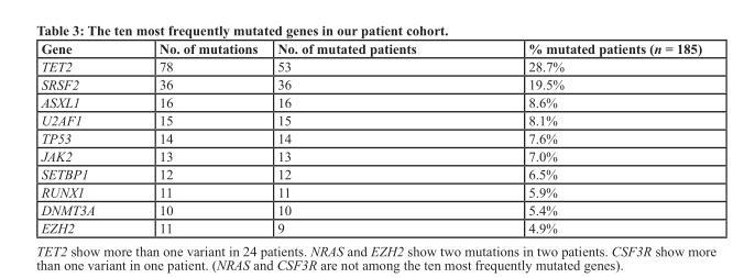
<table><thead><tr><td>Gene</td><td>No. of mutations</td><td>No. of mutated patients</td><td>% mutated patients (n = 185)</td></tr></thead><tbody><tr><td>TET2</td><td>78</td><td>53</td><td>28.7%</td></tr><tr><td>SRSF2</td><td>36</td><td>36</td><td>19.5%</td></tr><tr><td>ASXL1</td><td>16</td><td>16</td><td>8.6%</td></tr><tr><td>U2AF1</td><td>15</td><td>15</td><td>8.1%</td></tr><tr><td>TP53</td><td>14</td><td>14</td><td>7.6%</td></tr><tr><td>JAK2</td><td>13</td><td>13</td><td>7.0%</td></tr><tr><td>SETBP1</td><td>12</td><td>12</td><td>6.5%</td></tr><tr><td>RUNX1</td><td>11</td><td>11</td><td>5.9%</td></tr><tr><td>DNMT3A</td><td>10</td><td>10</td><td>5.4%</td></tr><tr><td>EZH2</td><td>11</td><td>9</td><td>4.9%</td></tr></tbody></table>